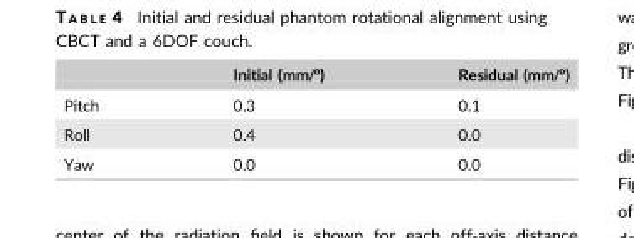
<table><thead><tr><td></td><td>Initial (mm/°)</td><td>Residual (mm/°)</td></tr></thead><tbody><tr><td>Pitch</td><td>0.3</td><td>0.1</td></tr><tr><td>Roll</td><td>0.4</td><td>0.0</td></tr><tr><td>Yaw</td><td>0.0</td><td>0.0</td></tr></tbody></table>